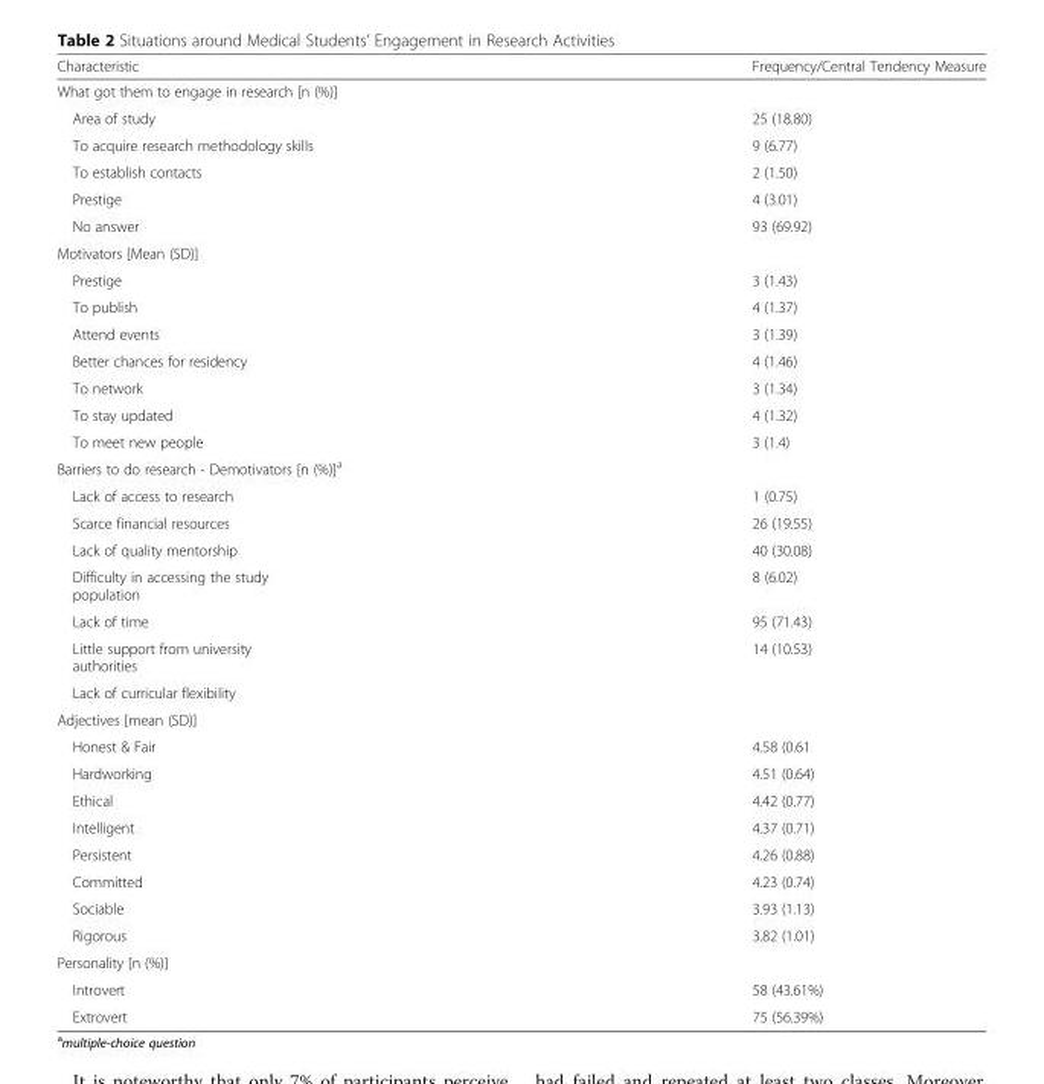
<table><thead><tr><td>Characteristic</td><td>Frequency/Central Tendency Measure</td></tr></thead><tbody><tr><td colspan="2">What got them to engage in research [n (%)]</td></tr><tr><td>Area of study</td><td>25 (18.80)</td></tr><tr><td>To acquire research methodology skills</td><td>9 (6.77)</td></tr><tr><td>To establish contacts</td><td>2 (1.50)</td></tr><tr><td>Prestige</td><td>4 (3.01)</td></tr><tr><td>No answer</td><td>93 (69.92)</td></tr><tr><td colspan="2">Motivators [Mean (SD)]</td></tr><tr><td>Prestige</td><td>3 (1.43)</td></tr><tr><td>To publish</td><td>4 (1.37)</td></tr><tr><td>Attend events</td><td>3 (1.39)</td></tr><tr><td>Better chances for residency</td><td>4 (1.46)</td></tr><tr><td>To network</td><td>3 (1.34)</td></tr><tr><td>To stay updated</td><td>4 (1.32)</td></tr><tr><td>To meet new people</td><td>3 (1.4)</td></tr><tr><td colspan="2">Barriers to do research - Demotivators [n (%)]<sup>a</sup></td></tr><tr><td>Lack of access to research</td><td>1 (0.75)</td></tr><tr><td>Scarce financial resources</td><td>26 (19.55)</td></tr><tr><td>Lack of quality mentorship</td><td>40 (30.08)</td></tr><tr><td>Difficulty in accessing the study population</td><td>8 (6.02)</td></tr><tr><td>Lack of time</td><td>95 (71.43)</td></tr><tr><td>Little support from university authorities</td><td rowspan="2">14 (10.53)</td></tr><tr><td>Lack of curricular flexibility</td></tr><tr><td colspan="2">Adjectives [mean (SD)]</td></tr><tr><td>Honest &amp; Fair</td><td>4.58 (0.61</td></tr><tr><td>Hardworking</td><td>4.51 (0.64)</td></tr><tr><td>Ethical</td><td>4.42 (0.77)</td></tr><tr><td>Intelligent</td><td>4.37 (0.71)</td></tr><tr><td>Persistent</td><td>4.26 (0.88)</td></tr><tr><td>Committed</td><td>4.23 (0.74)</td></tr><tr><td>Sociable</td><td>3.93 (1.13)</td></tr><tr><td>Rigorous</td><td>3.82 (1.01)</td></tr><tr><td colspan="2">Personality [n (%)]</td></tr><tr><td>Introvert</td><td>58 (43.61%)</td></tr><tr><td>Extrovert</td><td>75 (56.39%)</td></tr></tbody></table>